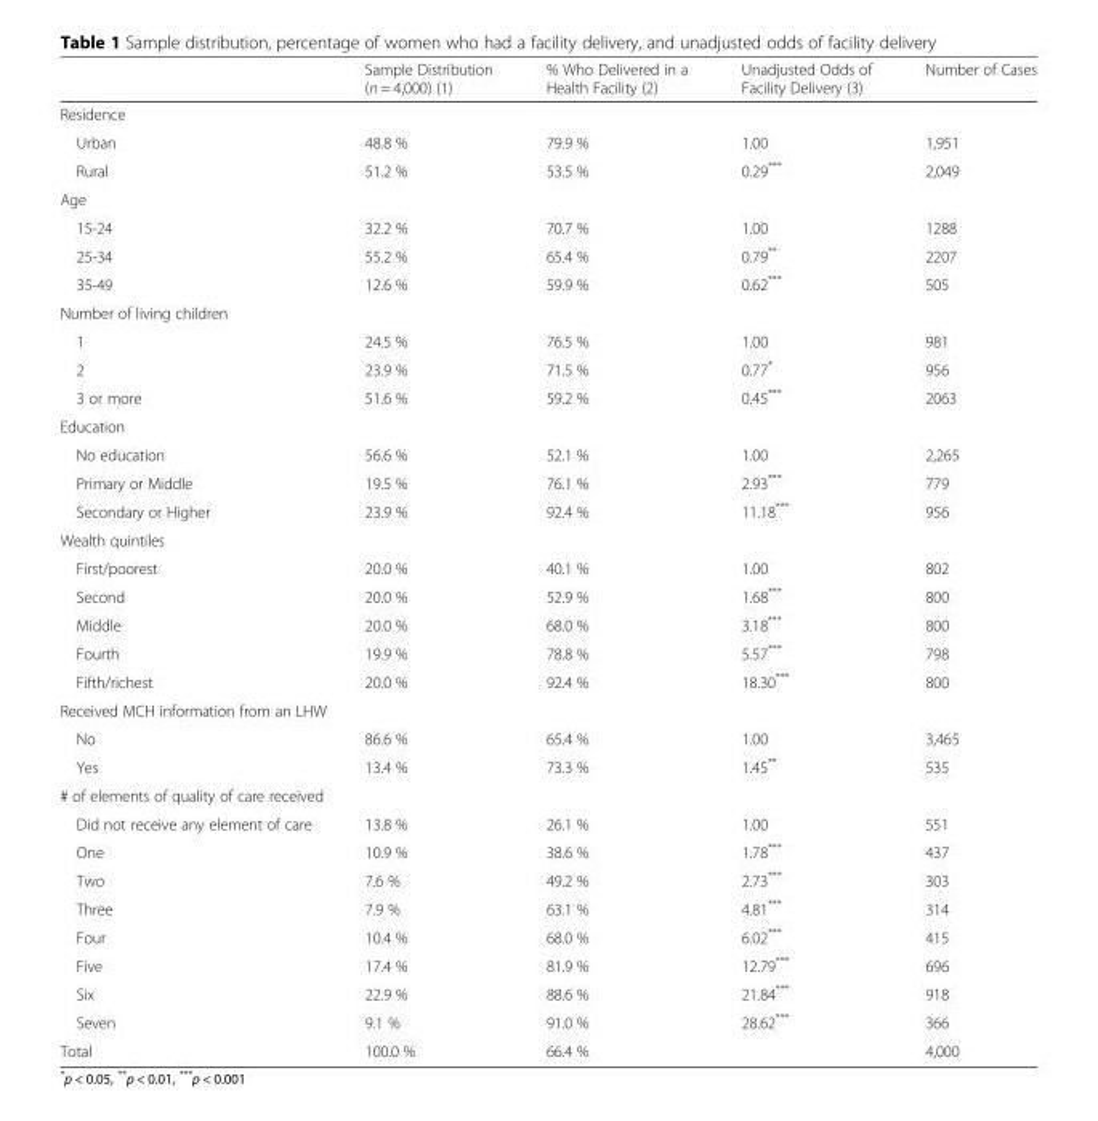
<table><thead><tr><td></td><td>Sample Distribution (n = 4,000) (1)</td><td>% Who Delivered in a Health Facility (2)</td><td>Unadjusted Odds of Facility Delivery (3)</td><td>Number of Cases</td></tr></thead><tbody><tr><td colspan="5">Residence</td></tr><tr><td>Urban</td><td>48.8 %</td><td>79.9 %</td><td>1.00</td><td>1,951</td></tr><tr><td>Rural</td><td>51.2 %</td><td>53.5 %</td><td>0.29***</td><td>2,049</td></tr><tr><td colspan="5">Age</td></tr><tr><td>15-24</td><td>32.2 %</td><td>70.7 %</td><td>1.00</td><td>1288</td></tr><tr><td>25-34</td><td>55.2 %</td><td>65.4 %</td><td>0.79**</td><td>2207</td></tr><tr><td>35-49</td><td>12.6 %</td><td>59.9 %</td><td>0.62***</td><td>505</td></tr><tr><td colspan="5">Number of living children</td></tr><tr><td>1</td><td>24.5 %</td><td>76.5 %</td><td>1.00</td><td>981</td></tr><tr><td>2</td><td>23.9 %</td><td>71.5 %</td><td>0.77*</td><td>956</td></tr><tr><td>3 or more</td><td>51.6 %</td><td>59.2 %</td><td>0.45***</td><td>2063</td></tr><tr><td colspan="5">Education</td></tr><tr><td>No education</td><td>56.6 %</td><td>52.1 %</td><td>1.00</td><td>2,265</td></tr><tr><td>Primary or Middle</td><td>19.5 %</td><td>76.1 %</td><td>2.93***</td><td>779</td></tr><tr><td>Secondary or Higher</td><td>23.9 %</td><td>92.4 %</td><td>11.18***</td><td>956</td></tr><tr><td colspan="5">Wealth quintiles</td></tr><tr><td>First/poorest</td><td>20.0 %</td><td>40.1 %</td><td>1.00</td><td>802</td></tr><tr><td>Second</td><td>20.0 %</td><td>52.9 %</td><td>1.68***</td><td>800</td></tr><tr><td>Middle</td><td>20.0 %</td><td>68.0 %</td><td>3.18***</td><td>800</td></tr><tr><td>Fourth</td><td>19.9 %</td><td>78.8 %</td><td>5.57***</td><td>798</td></tr><tr><td>Fifth/richest</td><td>20.0 %</td><td>92.4 %</td><td>18.30***</td><td>800</td></tr><tr><td colspan="5">Received MCH information from an LHW</td></tr><tr><td>No</td><td>86.6 %</td><td>65.4 %</td><td>1.00</td><td>3,465</td></tr><tr><td>Yes</td><td>13.4 %</td><td>73.3 %</td><td>1.45**</td><td>535</td></tr><tr><td colspan="5"># of elements of quality of care received</td></tr><tr><td>Did not receive any element of care</td><td>13.8 %</td><td>26.1 %</td><td>1.00</td><td>551</td></tr><tr><td>One</td><td>10.9 %</td><td>38.6 %</td><td>1.78***</td><td>437</td></tr><tr><td>Two</td><td>7.6 %</td><td>49.2 %</td><td>2.73***</td><td>303</td></tr><tr><td>Three</td><td>7.9 %</td><td>63.1 %</td><td>4.81***</td><td>314</td></tr><tr><td>Four</td><td>10.4 %</td><td>68.0 %</td><td>6.02***</td><td>415</td></tr><tr><td>Five</td><td>17.4 %</td><td>81.9 %</td><td>12.79***</td><td>696</td></tr><tr><td>Six</td><td>22.9 %</td><td>88.6 %</td><td>21.84***</td><td>918</td></tr><tr><td>Seven</td><td>9.1 %</td><td>91.0 %</td><td>28.62***</td><td>366</td></tr><tr><td>Total</td><td>100.0 %</td><td>66.4 %</td><td></td><td>4,000</td></tr></tbody></table>